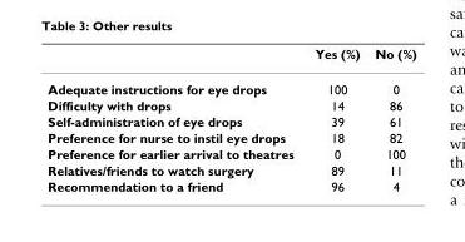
<table><thead><tr><td></td><td>Yes (%)</td><td>No (%)</td></tr></thead><tbody><tr><td>Adequate instructions for eye drops</td><td>100</td><td>0</td></tr><tr><td>Difficulty with drops</td><td>14</td><td>86</td></tr><tr><td>Self-administration of eye drops</td><td>39</td><td>61</td></tr><tr><td>Preference for nurse to instil eye drops</td><td>18</td><td>82</td></tr><tr><td>Preference for earlier arrival to theatres</td><td>0</td><td>100</td></tr><tr><td>Relatives/friends to watch surgery</td><td>89</td><td>11</td></tr><tr><td>Recommendation to a friend</td><td>96</td><td>4</td></tr></tbody></table>